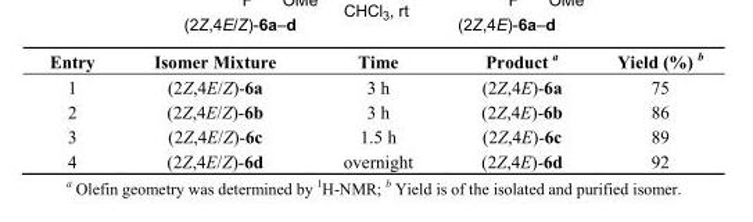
<table><thead><tr><td>Entry</td><td>Isomer Mixture</td><td>Time</td><td>Product <sup>a</sup></td><td>Yield (%) <sup>b</sup></td></tr></thead><tbody><tr><td>1</td><td>(2Z,4E/Z)-6a</td><td>3 h</td><td>(2Z,4E)-6a</td><td>75</td></tr><tr><td>2</td><td>(2Z,4E/Z)-6b</td><td>3 h</td><td>(2Z,4E)-6b</td><td>86</td></tr><tr><td>3</td><td>(2Z,4E/Z)-6c</td><td>1.5 h</td><td>(2Z,4E)-6c</td><td>89</td></tr><tr><td>4</td><td>(2Z,4E/Z)-6d</td><td>overnight</td><td>(2Z,4E)-6d</td><td>92</td></tr></tbody></table>